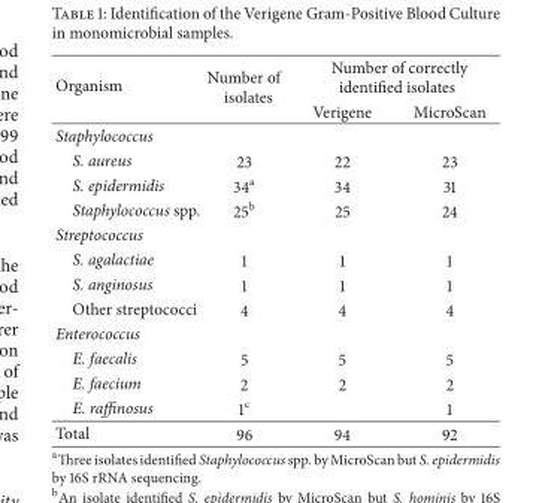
<table><thead><tr><td rowspan="2">Organism</td><td rowspan="2">Number of isolates</td><td colspan="2">Number of correctly identified isolates</td></tr><tr><td>Verigene</td><td>MicroScan</td></tr></thead><tbody><tr><td colspan="4">Staphylococcus</td></tr><tr><td>S. aureus</td><td>23</td><td>22</td><td>23</td></tr><tr><td>S. epidermidis</td><td>34<sup>a</sup></td><td>34</td><td>31</td></tr><tr><td>Staphylococcus spp.</td><td>25<sup>b</sup></td><td>25</td><td>24</td></tr><tr><td colspan="4">Streptococcus</td></tr><tr><td>S. agalactiae</td><td>1</td><td>1</td><td>1</td></tr><tr><td>S. anginosus</td><td>1</td><td>1</td><td>1</td></tr><tr><td>Other streptococci</td><td>4</td><td>4</td><td>4</td></tr><tr><td colspan="4">Enterococcus</td></tr><tr><td>E. faecalis</td><td>5</td><td>5</td><td>5</td></tr><tr><td>E. faecium</td><td>2</td><td>2</td><td>2</td></tr><tr><td>E. raffinosus</td><td>1<sup>c</sup></td><td></td><td>1</td></tr><tr><td>Total</td><td>96</td><td>94</td><td>92</td></tr></tbody></table>